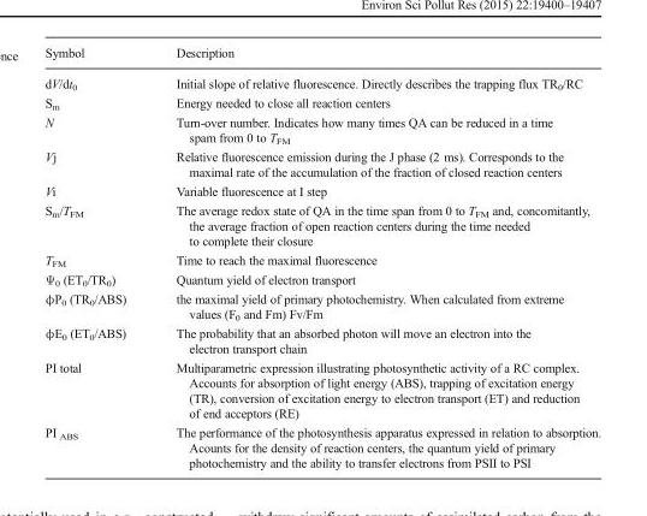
<table><thead><tr><td>Symbol</td><td>Description</td></tr></thead><tbody><tr><td>dV/dt<sub>0</sub></td><td>Initial slope of relative fluorescence. Directly describes the trapping flux TR<sub>0</sub>/RC</td></tr><tr><td>S<sub>m</sub></td><td>Energy needed to close all reaction centers</td></tr><tr><td>N</td><td>Turn-over number. Indicates how many times QA can be reduced in a time spam from 0 to T<sub>FM</sub></td></tr><tr><td>Vj</td><td>Relative fluorescence emission during the J phase (2 ms). Corresponds to the maximal rate of the accumulation of the fraction of closed reaction centers</td></tr><tr><td>Vi</td><td>Variable fluorescence at I step</td></tr><tr><td>S<sub>m</sub>/T<sub>FM</sub></td><td>The average redox state of QA in the time span from 0 to T<sub>FM</sub> and, concomitantly, the average fraction of open reaction centers during the time needed to complete their closure</td></tr><tr><td>T<sub>FM</sub></td><td>Time to reach the maximal fluorescence</td></tr><tr><td>Ѱ<sub>0</sub> (ET<sub>0</sub>/TR<sub>0</sub>)</td><td>Quantum yield of electron transport</td></tr><tr><td>ϕP<sub>0</sub> (TR<sub>0</sub>/ABS)</td><td>the maximal yield of primary photochemistry. When calculated from extreme values (F<sub>0</sub> and Fm) Fv/Fm</td></tr><tr><td>ϕE<sub>0</sub> (ET<sub>0</sub>/ABS)</td><td>The probability that an absorbed photon will move an electron into the electron transport chain</td></tr><tr><td>PI total</td><td>Multiparametric expression illustrating photosynthetic activity of a RC complex. Accounts for absorption of light energy (ABS), trapping of excitation energy (TR), conversion of excitation energy to electron transport (ET) and reduction of end acceptors (RE)</td></tr><tr><td>PI <sub>ABS</sub></td><td>The performance of the photosynthesis apparatus expressed in relation to absorption. Acounts for the density of reaction centers, the quantum yield of primary photochemistry and the ability to transfer electrons from PSII to PSI</td></tr></tbody></table>